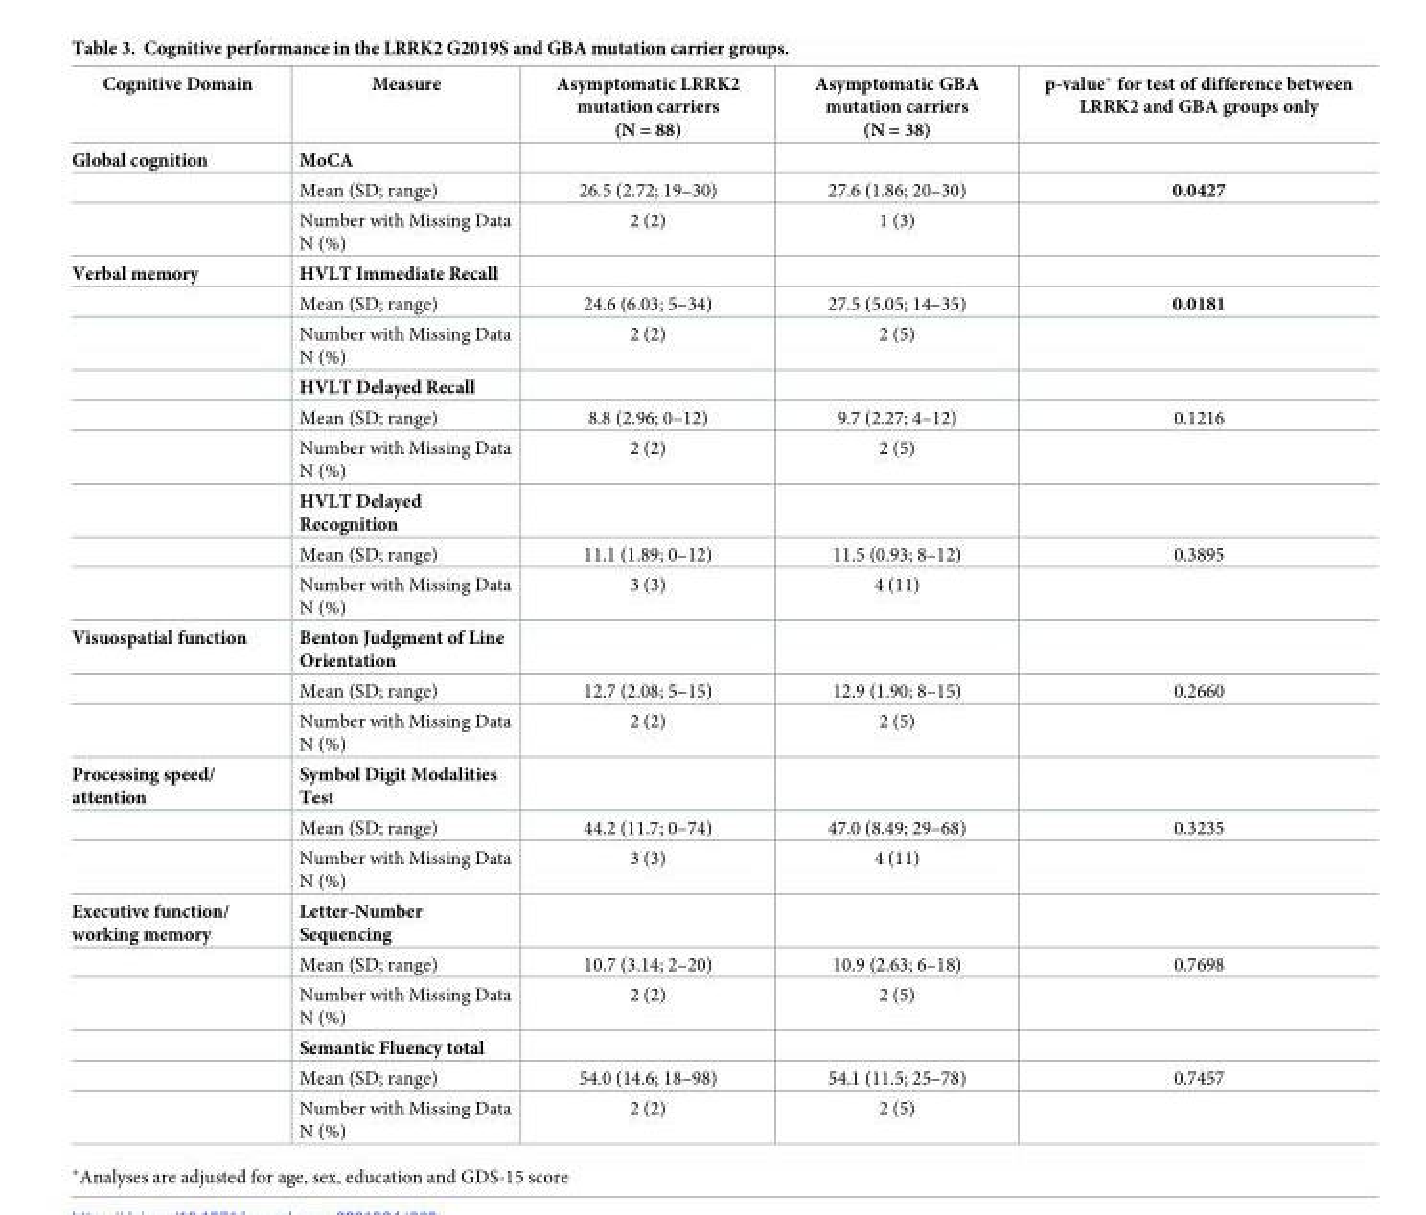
<table><thead><tr><td>Cognitive Domain</td><td>Measure</td><td>Asymptomatic LRRK2 mutation carriers (N = 88)</td><td>Asymptomatic GBA mutation carriers (N = 38)</td><td>p-value* for test of difference between LRRK2 and GBA groups only</td></tr></thead><tbody><tr><td rowspan="3">Global cognition</td><td>MoCA</td><td></td><td></td><td></td></tr><tr><td>Mean (SD; range)</td><td>26.5 (2.72; 19–30)</td><td>27.6 (1.86; 20–30)</td><td>0.0427</td></tr><tr><td>Number with Missing Data N (%)</td><td>2 (2)</td><td>1 (3)</td><td></td></tr><tr><td rowspan="9">Verbal memory</td><td>HVLT Immediate Recall</td><td></td><td></td><td></td></tr><tr><td>Mean (SD; range)</td><td>24.6 (6.03; 5–34)</td><td>27.5 (5.05; 14–35)</td><td>0.0181</td></tr><tr><td>Number with Missing Data N (%)</td><td>2 (2)</td><td>2 (5)</td><td></td></tr><tr><td>HVLT Delayed Recall</td><td></td><td></td><td></td></tr><tr><td>Mean (SD; range)</td><td>8.8 (2.96; 0–12)</td><td>9.7 (2.27; 4–12)</td><td>0.1216</td></tr><tr><td>Number with Missing Data N (%)</td><td>2 (2)</td><td>2 (5)</td><td></td></tr><tr><td>HVLT Delayed Recognition</td><td></td><td></td><td></td></tr><tr><td>Mean (SD; range)</td><td>11.1 (1.89; 0–12)</td><td>11.5 (0.93; 8–12)</td><td>0.3895</td></tr><tr><td>Number with Missing Data N (%)</td><td>3 (3)</td><td>4 (11)</td><td></td></tr><tr><td rowspan="3">Visuospatial function</td><td>Benton Judgment of Line Orientation</td><td></td><td></td><td></td></tr><tr><td>Mean (SD; range)</td><td>12.7 (2.08; 5–15)</td><td>12.9 (1.90; 8–15)</td><td>0.2660</td></tr><tr><td>Number with Missing Data N (%)</td><td>2 (2)</td><td>2 (5)</td><td></td></tr><tr><td rowspan="3">Processing speed/ attention</td><td>Symbol Digit Modalities Test</td><td></td><td></td><td></td></tr><tr><td>Mean (SD; range)</td><td>44.2 (11.7; 0–74)</td><td>47.0 (8.49; 29–68)</td><td>0.3235</td></tr><tr><td>Number with Missing Data N (%)</td><td>3 (3)</td><td>4 (11)</td><td></td></tr><tr><td rowspan="6">Executive function/ working memory</td><td>Letter-Number Sequencing</td><td></td><td></td><td></td></tr><tr><td>Mean (SD; range)</td><td>10.7 (3.14; 2–20)</td><td>10.9 (2.63; 6–18)</td><td>0.7698</td></tr><tr><td>Number with Missing Data N (%)</td><td>2 (2)</td><td>2 (5)</td><td></td></tr><tr><td>Semantic Fluency total</td><td></td><td></td><td></td></tr><tr><td>Mean (SD; range)</td><td>54.0 (14.6; 18–98)</td><td>54.1 (11.5; 25–78)</td><td>0.7457</td></tr><tr><td>Number with Missing Data N (%)</td><td>2 (2)</td><td>2 (5)</td><td></td></tr></tbody></table>